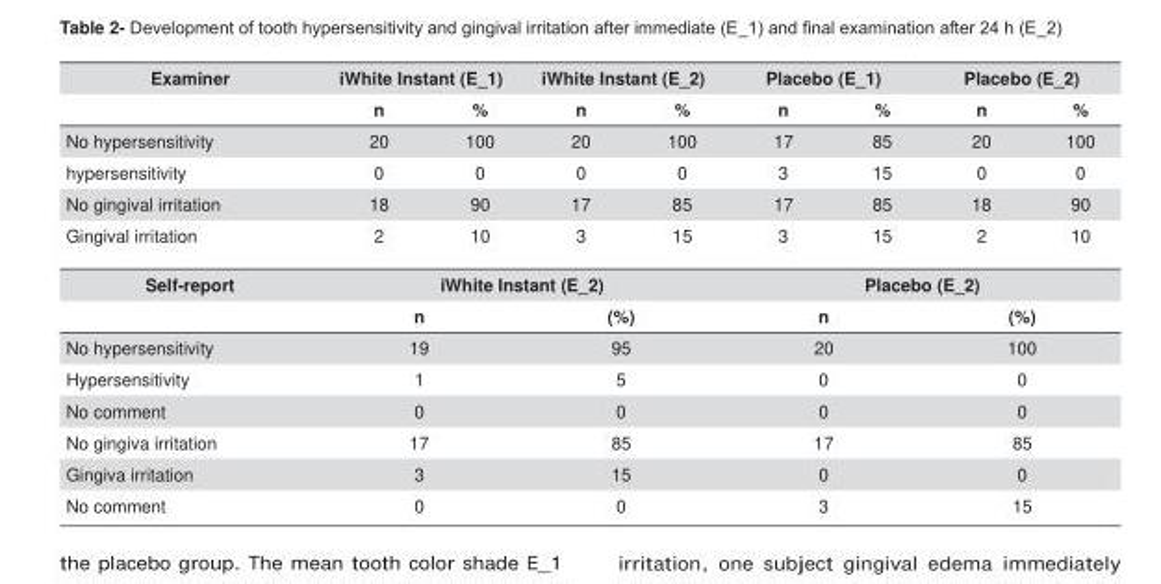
<table><thead><tr><td rowspan="2">Examiner</td><td colspan="2">iWhite Instant (E_1)</td><td colspan="2">iWhite Instant (E_2)</td><td colspan="2">Placebo (E_1)</td><td colspan="2">Placebo (E_2)</td></tr><tr><td>n</td><td>%</td><td>n</td><td>%</td><td>n</td><td>%</td><td>n</td><td>%</td></tr></thead><tbody><tr><td>No hypersensitivity</td><td>20</td><td>100</td><td>20</td><td>100</td><td>17</td><td>85</td><td>20</td><td>100</td></tr><tr><td>hypersensitivity</td><td>0</td><td>0</td><td>0</td><td>0</td><td>3</td><td>15</td><td>0</td><td>0</td></tr><tr><td>No gingival irritation</td><td>18</td><td>90</td><td>17</td><td>85</td><td>17</td><td>85</td><td>18</td><td>90</td></tr><tr><td>Gingival irritation</td><td>2</td><td>10</td><td>3</td><td>15</td><td>3</td><td>15</td><td>2</td><td>10</td></tr><tr><td rowspan="2">Self-report</td><td colspan="4">iWhite Instant (E_2)</td><td colspan="4">Placebo (E_2)</td></tr><tr><td colspan="2">n</td><td colspan="2">(%)</td><td colspan="2">n</td><td colspan="2">(%)</td></tr><tr><td>No hypersensitivity</td><td colspan="2">19</td><td colspan="2">95</td><td colspan="2">20</td><td colspan="2">100</td></tr><tr><td>Hypersensitivity</td><td colspan="2">1</td><td colspan="2">5</td><td colspan="2">0</td><td colspan="2">0</td></tr><tr><td>No comment</td><td colspan="2">0</td><td colspan="2">0</td><td colspan="2">0</td><td colspan="2">0</td></tr><tr><td>No gingiva irritation</td><td colspan="2">17</td><td colspan="2">85</td><td colspan="2">17</td><td colspan="2">85</td></tr><tr><td>Gingiva irritation</td><td colspan="2">3</td><td colspan="2">15</td><td colspan="2">0</td><td colspan="2">0</td></tr><tr><td>No comment</td><td colspan="2">0</td><td colspan="2">0</td><td colspan="2">3</td><td colspan="2">15</td></tr></tbody></table>